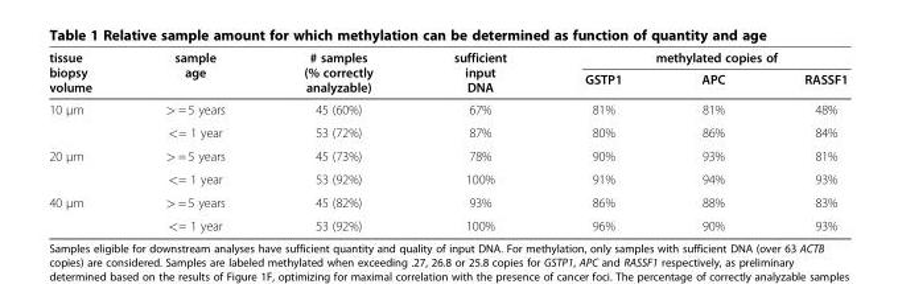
<table><thead><tr><td rowspan="2">tissue biopsy volume</td><td rowspan="2">sample age</td><td rowspan="2"># samples (% correctly analyzable)</td><td rowspan="2">sufficient input DNA</td><td colspan="3">methylated copies of</td></tr><tr><td>GSTP1</td><td>APC</td><td>RASSF1</td></tr></thead><tbody><tr><td rowspan="2">10 μm</td><td>&gt; = 5 years</td><td>45 (60%)</td><td>67%</td><td>81%</td><td>81%</td><td>48%</td></tr><tr><td>&lt;= 1 year</td><td>53 (72%)</td><td>87%</td><td>80%</td><td>86%</td><td>84%</td></tr><tr><td rowspan="2">20 μm</td><td>&gt; = 5 years</td><td>45 (73%)</td><td>78%</td><td>90%</td><td>93%</td><td>81%</td></tr><tr><td>&lt;= 1 year</td><td>53 (92%)</td><td>100%</td><td>91%</td><td>94%</td><td>93%</td></tr><tr><td rowspan="2">40 μm</td><td>&gt; = 5 years</td><td>45 (82%)</td><td>93%</td><td>86%</td><td>88%</td><td>83%</td></tr><tr><td>&lt;= 1 year</td><td>53 (92%)</td><td>100%</td><td>96%</td><td>90%</td><td>93%</td></tr></tbody></table>